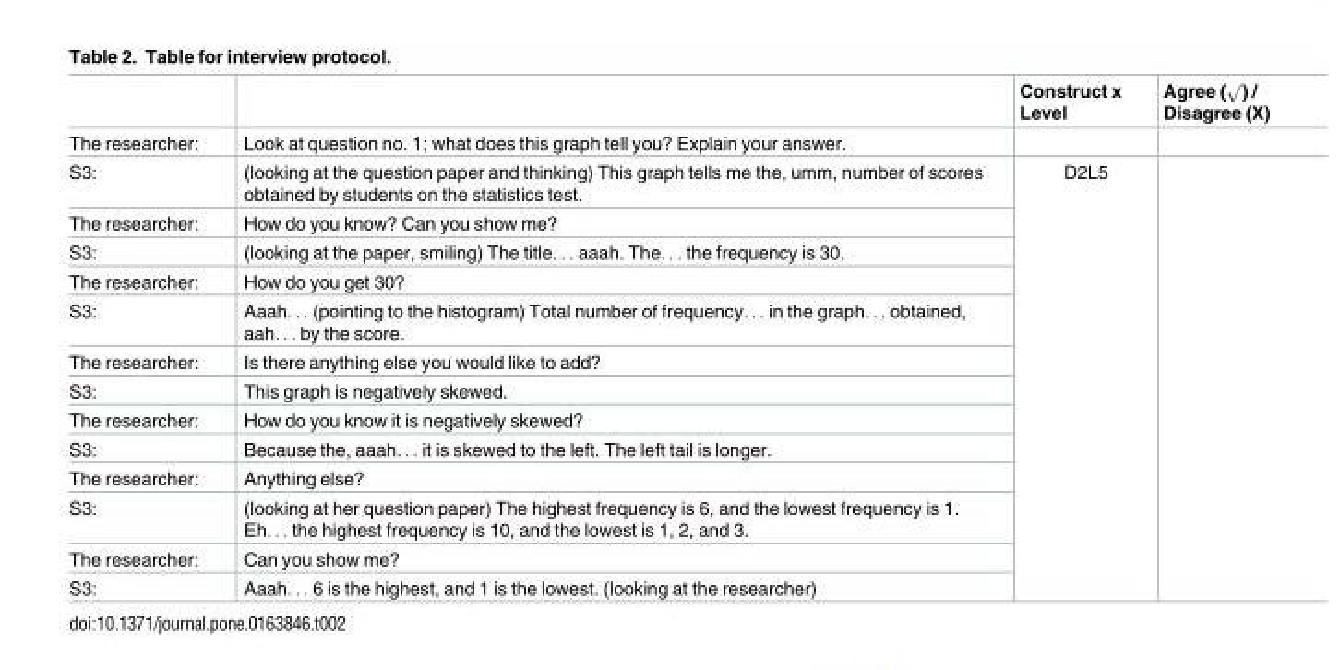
<table><thead><tr><td></td><td></td><td>Construct x Level</td><td>Agree (√) / Disagree (X)</td></tr></thead><tbody><tr><td>The researcher:</td><td>Look at question no. 1; what does this graph tell you? Explain your answer.</td><td></td><td></td></tr><tr><td>S3:</td><td>(looking at the question paper and thinking) This graph tells me the, umm, number of scores obtained by students on the statistics test.</td><td rowspan="13">D2L5</td><td rowspan="13"></td></tr><tr><td>The researcher:</td><td>How do you know? Can you show me?</td></tr><tr><td>S3:</td><td>(looking at the paper, smiling) The title. . . aaah. The. . . the frequency is 30.</td></tr><tr><td>The researcher:</td><td>How do you get 30?</td></tr><tr><td>S3:</td><td>Aaah. . . (pointing to the histogram) Total number of frequency. . . in the graph. . . obtained, aah. . . by the score.</td></tr><tr><td>The researcher:</td><td>Is there anything else you would like to add?</td></tr><tr><td>S3:</td><td>This graph is negatively skewed.</td></tr><tr><td>The researcher:</td><td>How do you know it is negatively skewed?</td></tr><tr><td>S3:</td><td>Because the, aaah. . . it is skewed to the left. The left tail is longer.</td></tr><tr><td>The researcher:</td><td>Anything else?</td></tr><tr><td>S3:</td><td>(looking at her question paper) The highest frequency is 6, and the lowest frequency is 1. Eh. . . the highest frequency is 10, and the lowest is 1, 2, and 3.</td></tr><tr><td>The researcher:</td><td>Can you show me?</td></tr><tr><td>S3:</td><td>Aaah. . . 6 is the highest, and 1 is the lowest. (looking at the researcher)</td></tr></tbody></table>